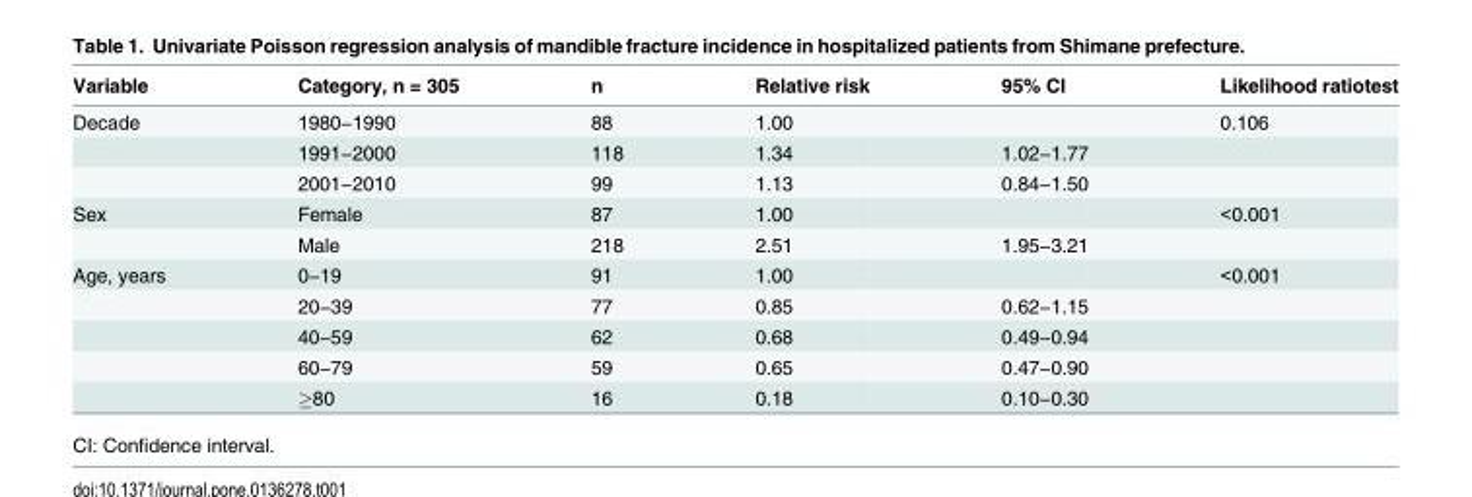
<table><thead><tr><td>Variable</td><td>Category, n = 305</td><td>n</td><td>Relative risk</td><td>95% CI</td><td>Likelihood ratiotest</td></tr></thead><tbody><tr><td rowspan="3">Decade</td><td>1980−1990</td><td>88</td><td>1.00</td><td></td><td>0.106</td></tr><tr><td>1991−2000</td><td>118</td><td>1.34</td><td>1.02−1.77</td><td></td></tr><tr><td>2001−2010</td><td>99</td><td>1.13</td><td>0.84−1.50</td><td></td></tr><tr><td rowspan="2">Sex</td><td>Female</td><td>87</td><td>1.00</td><td></td><td>&lt;0.001</td></tr><tr><td>Male</td><td>218</td><td>2.51</td><td>1.95−3.21</td><td></td></tr><tr><td rowspan="5">Age, years</td><td>0−19</td><td>91</td><td>1.00</td><td></td><td>&lt;0.001</td></tr><tr><td>20−39</td><td>77</td><td>0.85</td><td>0.62−1.15</td><td></td></tr><tr><td>40−59</td><td>62</td><td>0.68</td><td>0.49−0.94</td><td></td></tr><tr><td>60−79</td><td>59</td><td>0.65</td><td>0.47−0.90</td><td></td></tr><tr><td>≥80</td><td>16</td><td>0.18</td><td>0.10−0.30</td><td></td></tr></tbody></table>